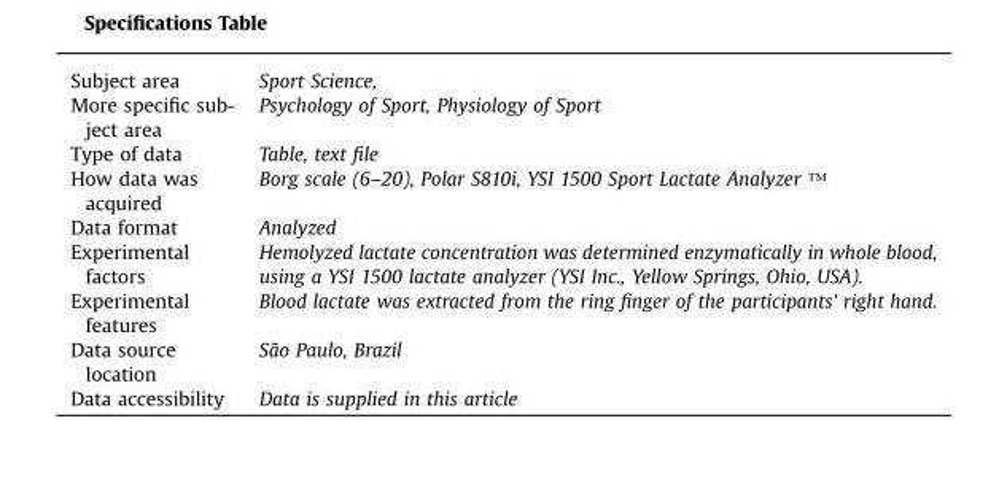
<table><tbody><tr><td>Subject area</td><td>Sport Science,</td></tr><tr><td>More specific sub- ject area</td><td>Psychology of Sport, Physiology of Sport</td></tr><tr><td>Type of data</td><td>Table, text file</td></tr><tr><td>How data was acquired</td><td>Borg scale (6–20), Polar S810i, YSI 1500 Sport Lactate Analyzer ™</td></tr><tr><td>Data format</td><td>Analyzed</td></tr><tr><td>Experimental factors</td><td>Hemolyzed lactate concentration was determined enzymatically in whole blood, using a YSI 1500 lactate analyzer (YSI Inc., Yellow Springs, Ohio, USA).</td></tr><tr><td>Experimental features</td><td>Blood lactate was extracted from the ring finger of the participants’ right hand.</td></tr><tr><td>Data source location</td><td>São Paulo, Brazil</td></tr><tr><td>Data accessibility</td><td>Data is supplied in this article</td></tr></tbody></table>